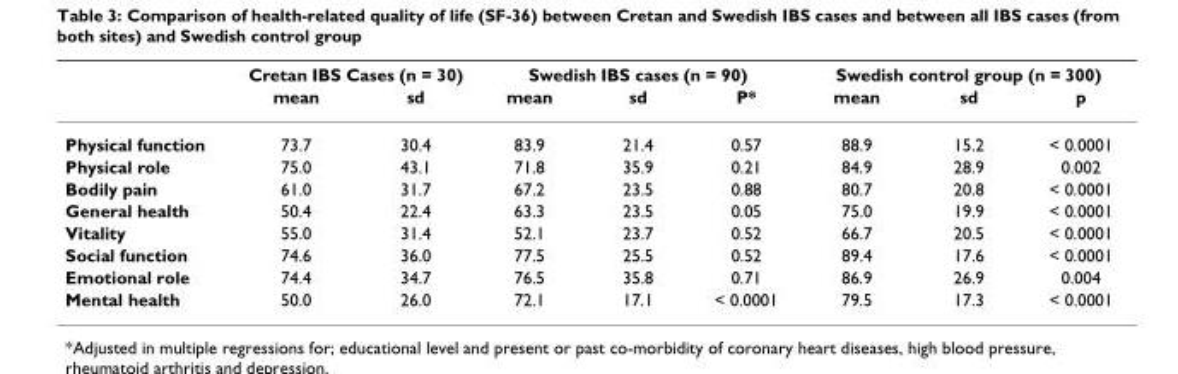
<table><thead><tr><td rowspan="2"></td><td colspan="2">Cretan IBS Cases (n = 30)</td><td colspan="3">Swedish IBS cases (n = 90)</td><td colspan="3">Swedish control group (n = 300)</td></tr><tr><td>mean</td><td>sd</td><td>mean</td><td>sd</td><td>P*</td><td>mean</td><td>sd</td><td>p</td></tr></thead><tbody><tr><td>Physical function</td><td>73.7</td><td>30.4</td><td>83.9</td><td>21.4</td><td>0.57</td><td>88.9</td><td>15.2</td><td>&lt; 0.0001</td></tr><tr><td>Physical role</td><td>75.0</td><td>43.1</td><td>71.8</td><td>35.9</td><td>0.21</td><td>84.9</td><td>28.9</td><td>0.002</td></tr><tr><td>Bodily pain</td><td>61.0</td><td>31.7</td><td>67.2</td><td>23.5</td><td>0.88</td><td>80.7</td><td>20.8</td><td>&lt; 0.0001</td></tr><tr><td>General health</td><td>50.4</td><td>22.4</td><td>63.3</td><td>23.5</td><td>0.05</td><td>75.0</td><td>19.9</td><td>&lt; 0.0001</td></tr><tr><td>Vitality</td><td>55.0</td><td>31.4</td><td>52.1</td><td>23.7</td><td>0.52</td><td>66.7</td><td>20.5</td><td>&lt; 0.0001</td></tr><tr><td>Social function</td><td>74.6</td><td>36.0</td><td>77.5</td><td>25.5</td><td>0.52</td><td>89.4</td><td>17.6</td><td>&lt; 0.0001</td></tr><tr><td>Emotional role</td><td>74.4</td><td>34.7</td><td>76.5</td><td>35.8</td><td>0.71</td><td>86.9</td><td>26.9</td><td>0.004</td></tr><tr><td>Mental health</td><td>50.0</td><td>26.0</td><td>72.1</td><td>17.1</td><td>&lt; 0.0001</td><td>79.5</td><td>17.3</td><td>&lt; 0.0001</td></tr></tbody></table>